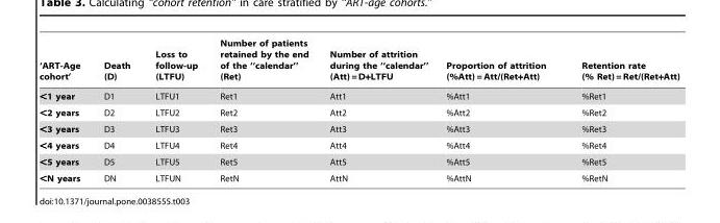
<table><thead><tr><td>‘ART-Age cohort’</td><td>Death (D)</td><td>Loss to follow-up (LTFU)</td><td>Number of patients retained by the end of the ‘‘calendar’’ (Ret)</td><td>Number of attrition during the ‘‘calendar’’ (Att) = D+LTFU</td><td>Proportion of attrition (%Att) = Att/(Ret+Att)</td><td>Retention rate (% Ret) = Ret/(Ret+Att)</td></tr></thead><tbody><tr><td>&lt;1 year</td><td>D1</td><td>LTFU1</td><td>Ret1</td><td>Att1</td><td>%Att1</td><td>%Ret1</td></tr><tr><td>&lt;2 years</td><td>D2</td><td>LTFU2</td><td>Ret2</td><td>Att2</td><td>%Att2</td><td>%Ret2</td></tr><tr><td>&lt;3 years</td><td>D3</td><td>LTFU3</td><td>Ret3</td><td>Att3</td><td>%Att3</td><td>%Ret3</td></tr><tr><td>&lt;4 years</td><td>D4</td><td>LTFU4</td><td>Ret4</td><td>Att4</td><td>%Att4</td><td>%Ret4</td></tr><tr><td>&lt;5 years</td><td>D5</td><td>LTFU5</td><td>Ret5</td><td>Att5</td><td>%Att5</td><td>%Ret5</td></tr><tr><td>&lt;N years</td><td>DN</td><td>LTFUN</td><td>RetN</td><td>AttN</td><td>%AttN</td><td>%RetN</td></tr></tbody></table>